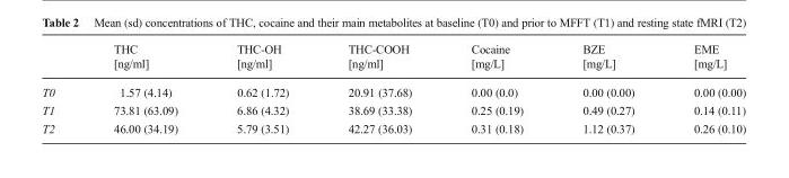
<table><thead><tr><td></td><td>THC [ng/ml]</td><td>THC-OH [ng/ml]</td><td>THC-COOH [ng/ml]</td><td>Cocaine [mg/L]</td><td>BZE [mg/L]</td><td>EME [mg/L]</td></tr></thead><tbody><tr><td>T0</td><td>1.57 (4.14)</td><td>0.62 (1.72)</td><td>20.91 (37.68)</td><td>0.00 (0.0)</td><td>0.00 (0.00)</td><td>0.00 (0.00)</td></tr><tr><td>T1</td><td>73.81 (63.09)</td><td>6.86 (4.32)</td><td>38.69 (33.38)</td><td>0.25 (0.19)</td><td>0.49 (0.27)</td><td>0.14 (0.11)</td></tr><tr><td>T2</td><td>46.00 (34.19)</td><td>5.79 (3.51)</td><td>42.27 (36.03)</td><td>0.31 (0.18)</td><td>1.12 (0.37)</td><td>0.26 (0.10)</td></tr></tbody></table>